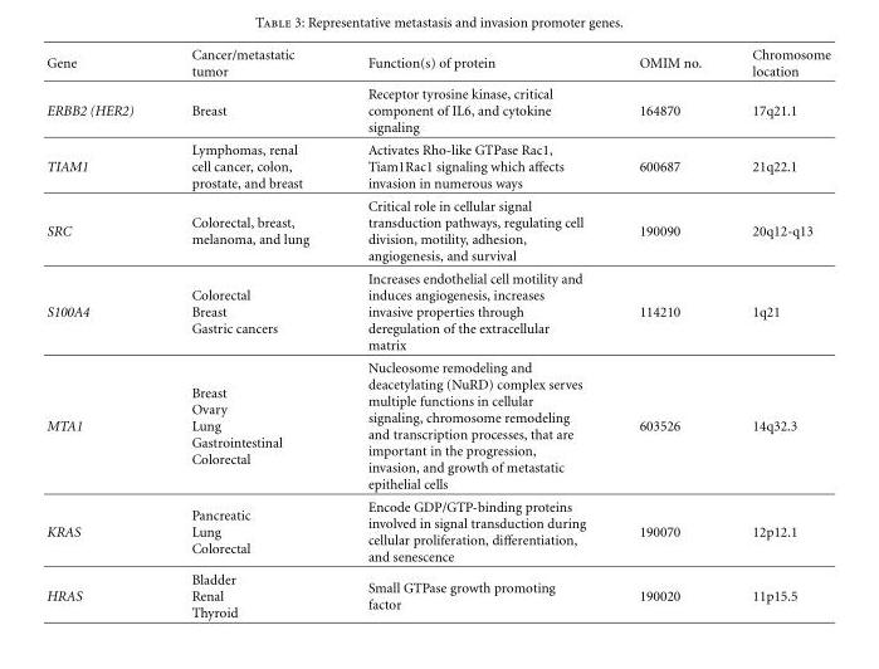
<table><thead><tr><td>Gene</td><td>Cancer/metastatic tumor</td><td>Function(s) of protein</td><td>OMIM no.</td><td>Chromosome location</td></tr></thead><tbody><tr><td>ERBB2 (HER2)</td><td>Breast</td><td>Receptor tyrosine kinase, critical component of IL6, and cytokine signaling</td><td>164870</td><td>17q21.1</td></tr><tr><td>TIAM1</td><td>Lymphomas, renal cell cancer, colon, prostate, and breast</td><td>Activates Rho-like GTPase Rac1, Tiam1Rac1 signaling which affects invasion in numerous ways</td><td>600687</td><td>21q22.1</td></tr><tr><td>SRC</td><td>Colorectal, breast, melanoma, and lung</td><td>Critical role in cellular signal transduction pathways, regulating cell division, motility, adhesion, angiogenesis, and survival</td><td>190090</td><td>20q12-q13</td></tr><tr><td>S100A4</td><td>Colorectal Breast Gastric cancers</td><td>Increases endothelial cell motility and induces angiogenesis, increases invasive properties through deregulation of the extracellular matrix</td><td>114210</td><td>1q21</td></tr><tr><td>MTA1</td><td>Breast Ovary Lung Gastrointestinal Colorectal</td><td>Nucleosome remodeling and deacetylating (NuRD) complex serves multiple functions in cellular signaling, chromosome remodeling and transcription processes, that are important in the progression, invasion, and growth of metastatic epithelial cells</td><td>603526</td><td>14q32.3</td></tr><tr><td>KRAS</td><td>Pancreatic Lung Colorectal</td><td>Encode GDP/GTP-binding proteins involved in signal transduction during cellular proliferation, differentiation, and senescence</td><td>190070</td><td>12p12.1</td></tr><tr><td>HRAS</td><td>Bladder Renal Thyroid</td><td>Small GTPase growth promoting factor</td><td>190020</td><td>11p15.5</td></tr></tbody></table>